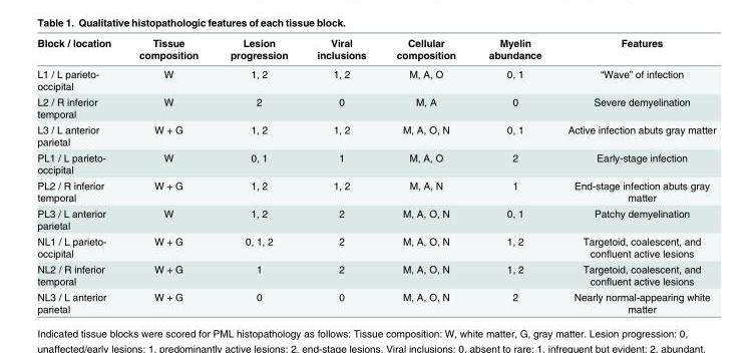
<table><thead><tr><td>Block / location</td><td>Tissue composition</td><td>Lesion progression</td><td>Viral inclusions</td><td>Cellular composition</td><td>Myelin abundance</td><td>Features</td></tr></thead><tbody><tr><td>L1 / L parieto- occipital</td><td>W</td><td>1, 2</td><td>1, 2</td><td>M, A, O</td><td>0, 1</td><td>“Wave” of infection</td></tr><tr><td>L2 / R inferior temporal</td><td>W</td><td>2</td><td>0</td><td>M, A</td><td>0</td><td>Severe demyelination</td></tr><tr><td>L3 / L anterior parietal</td><td>W + G</td><td>1, 2</td><td>1, 2</td><td>M, A, O, N</td><td>0, 1</td><td>Active infection abuts gray matter</td></tr><tr><td>PL1 / L parieto- occipital</td><td>W</td><td>0, 1</td><td>1</td><td>M, A, O</td><td>2</td><td>Early-stage infection</td></tr><tr><td>PL2 / R inferior temporal</td><td>W + G</td><td>1, 2</td><td>1, 2</td><td>M, A, N</td><td>1</td><td>End-stage infection abuts gray matter</td></tr><tr><td>PL3 / L anterior parietal</td><td>W</td><td>1, 2</td><td>2</td><td>M, A, O, N</td><td>0, 1</td><td>Patchy demyelination</td></tr><tr><td>NL1 / L parieto- occipital</td><td>W + G</td><td>0, 1, 2</td><td>2</td><td>M, A, O, N</td><td>1, 2</td><td>Targetoid, coalescent, and confluent active lesions</td></tr><tr><td>NL2 / R inferior temporal</td><td>W + G</td><td>1</td><td>2</td><td>M, A, O, N</td><td>1, 2</td><td>Targetoid, coalescent, and confluent active lesions</td></tr><tr><td>NL3 / L anterior parietal</td><td>W + G</td><td>0</td><td>0</td><td>M, A, O, N</td><td>2</td><td>Nearly normal-appearing white matter</td></tr></tbody></table>